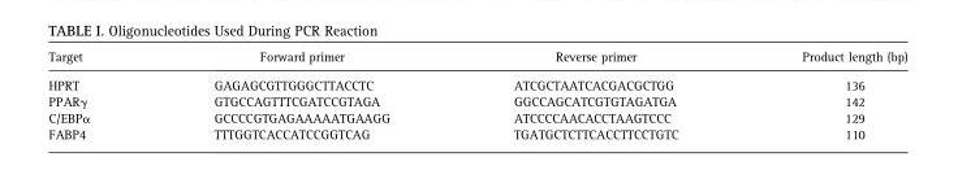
<table><thead><tr><td>Target</td><td>Forward primer</td><td>Reverse primer</td><td>Product length (bp)</td></tr></thead><tbody><tr><td>HPRT</td><td>GAGAGCGTTGGGCTTACCTC</td><td>ATCGCTAATCACGACGCTGG</td><td>136</td></tr><tr><td>PPARγ</td><td>GTGCCAGTTTCGATCCGTAGA</td><td>GGCCAGCATCGTGTAGATGA</td><td>142</td></tr><tr><td>C/EBPα</td><td>GCCCCGTGAGAAAAATGAAGG</td><td>ATCCCCAACACCTAAGTCCC</td><td>129</td></tr><tr><td>FABP4</td><td>TTTGGTCACCATCCGGTCAG</td><td>TGATGCTCTTCACCTTCCTGTC</td><td>110</td></tr></tbody></table>